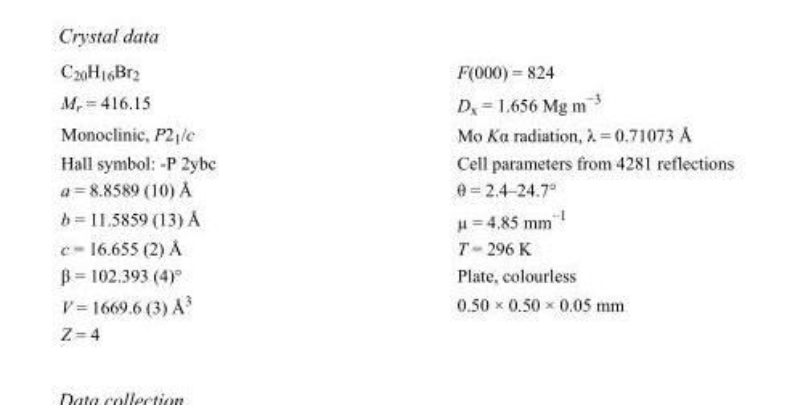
<table><tbody><tr><td>C<sub>20</sub>H<sub>16</sub>Br<sub>2</sub></td><td>F(000) = 824</td></tr><tr><td>M<sub>r</sub> = 416.15</td><td>D<sub>x</sub> = 1.656 Mg m<sup>−3</sup></td></tr><tr><td>Monoclinic, P2<sub>1</sub>/c</td><td>Mo Kα radiation, λ = 0.71073 Å</td></tr><tr><td>Hall symbol: -P 2ybc</td><td>Cell parameters from 4281 reflections</td></tr><tr><td>a = 8.8589 (10) Å</td><td>θ = 2.4–24.7°</td></tr><tr><td>b = 11.5859 (13) Å</td><td>µ = 4.85 mm<sup>−1</sup></td></tr><tr><td>c = 16.655 (2) Å</td><td>T = 296 K</td></tr><tr><td>β = 102.393 (4)°</td><td>Plate, colourless</td></tr><tr><td>V = 1669.6 (3) Å<sup>3</sup></td><td>0.50 × 0.50 × 0.05 mm</td></tr><tr><td>Z = 4</td><td></td></tr></tbody></table>